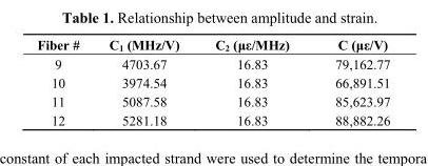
<table><thead><tr><td>Fiber #</td><td>C<sub>1</sub> (MHz/V)</td><td>C<sub>2</sub> (με/MHz)</td><td>C (με/V)</td></tr></thead><tbody><tr><td>9</td><td>4703.67</td><td>16.83</td><td>79,162.77</td></tr><tr><td>10</td><td>3974.54</td><td>16.83</td><td>66,891.51</td></tr><tr><td>11</td><td>5087.58</td><td>16.83</td><td>85,623.97</td></tr><tr><td>12</td><td>5281.18</td><td>16.83</td><td>88,882.26</td></tr></tbody></table>